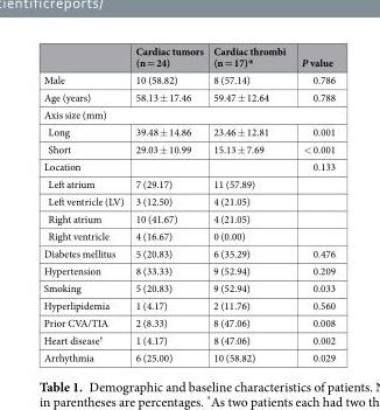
<table><thead><tr><td></td><td>Cardiac tumors (n = 24)</td><td>Cardiac thrombi (n = 17)*</td><td>P value</td></tr></thead><tbody><tr><td>Male</td><td>10 (58.82)</td><td>8 (57.14)</td><td>0.786</td></tr><tr><td>Age (years)</td><td>58.13 ± 17.46</td><td>59.47 ± 12.64</td><td>0.788</td></tr><tr><td colspan="4">Axis size (mm)</td></tr><tr><td>Long</td><td>39.48 ± 14.86</td><td>23.46 ± 12.81</td><td>0.001</td></tr><tr><td>Short</td><td>29.03 ± 10.99</td><td>15.13 ± 7.69</td><td>&lt; 0.001</td></tr><tr><td>Location</td><td></td><td></td><td>0.133</td></tr><tr><td>Left atrium</td><td>7 (29.17)</td><td>11 (57.89)</td><td></td></tr><tr><td>Left ventricle (LV)</td><td>3 (12.50)</td><td>4 (21.05)</td><td></td></tr><tr><td>Right atrium</td><td>10 (41.67)</td><td>4 (21.05)</td><td></td></tr><tr><td>Right ventricle</td><td>4 (16.67)</td><td>0 (0.00)</td><td></td></tr><tr><td>Diabetes mellitus</td><td>5 (20.83)</td><td>6 (35.29)</td><td>0.476</td></tr><tr><td>Hypertension</td><td>8 (33.33)</td><td>9 (52.94)</td><td>0.209</td></tr><tr><td>Smoking</td><td>5 (20.83)</td><td>9 (52.94)</td><td>0.033</td></tr><tr><td>Hyperlipidemia</td><td>1 (4.17)</td><td>2 (11.76)</td><td>0.560</td></tr><tr><td>Prior CVA/TIA</td><td>2 (8.33)</td><td>8 (47.06)</td><td>0.008</td></tr><tr><td>Heart disease<sup>†</sup></td><td>1 (4.17)</td><td>8 (47.06)</td><td>0.002</td></tr><tr><td>Arrhythmia</td><td>6 (25.00)</td><td>10 (58.82)</td><td>0.029</td></tr></tbody></table>